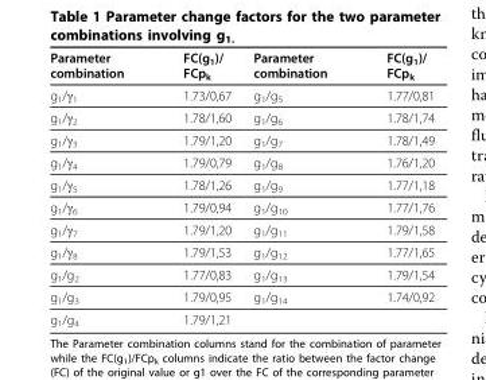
<table><thead><tr><td>Parameter combination</td><td>FC(g<sub>1</sub>)/ FCp<sub>k</sub></td><td>Parameter combination</td><td>FC(g<sub>1</sub>)/ FCp<sub>k</sub></td></tr></thead><tbody><tr><td>g<sub>1</sub>/γ<sub>1</sub></td><td>1.73/0,67</td><td>g<sub>1</sub>/g<sub>5</sub></td><td>1.77/0,81</td></tr><tr><td>g<sub>1</sub>/γ<sub>2</sub></td><td>1.78/1,60</td><td>g<sub>1</sub>/g<sub>6</sub></td><td>1.78/1,74</td></tr><tr><td>g<sub>1</sub>/γ<sub>3</sub></td><td>1.79/1,20</td><td>g<sub>1</sub>/g<sub>7</sub></td><td>1.78/1,49</td></tr><tr><td>g<sub>1</sub>/γ<sub>4</sub></td><td>1.79/0,79</td><td>g<sub>1</sub>/g<sub>8</sub></td><td>1.76/1,20</td></tr><tr><td>g<sub>1</sub>/γ<sub>5</sub></td><td>1.78/1,26</td><td>g<sub>1</sub>/g<sub>9</sub></td><td>1.77/1,18</td></tr><tr><td>g<sub>1</sub>/γ<sub>6</sub></td><td>1.79/0,94</td><td>g<sub>1</sub>/g<sub>10</sub></td><td>1.77/1,76</td></tr><tr><td>g<sub>1</sub>/γ<sub>7</sub></td><td>1.79/1,20</td><td>g<sub>1</sub>/g<sub>11</sub></td><td>1.79/1,58</td></tr><tr><td>g<sub>1</sub>/γ<sub>8</sub></td><td>1.79/1,53</td><td>g<sub>1</sub>/g<sub>12</sub></td><td>1.77/1,65</td></tr><tr><td>g<sub>1</sub>/g<sub>2</sub></td><td>1.77/0,83</td><td>g<sub>1</sub>/g<sub>13</sub></td><td>1.79/1,54</td></tr><tr><td>g<sub>1</sub>/g<sub>3</sub></td><td>1.79/0,95</td><td>g<sub>1</sub>/g<sub>14</sub></td><td>1.74/0,92</td></tr><tr><td>g<sub>1</sub>/g<sub>4</sub></td><td>1.79/1,21</td><td></td><td></td></tr></tbody></table>